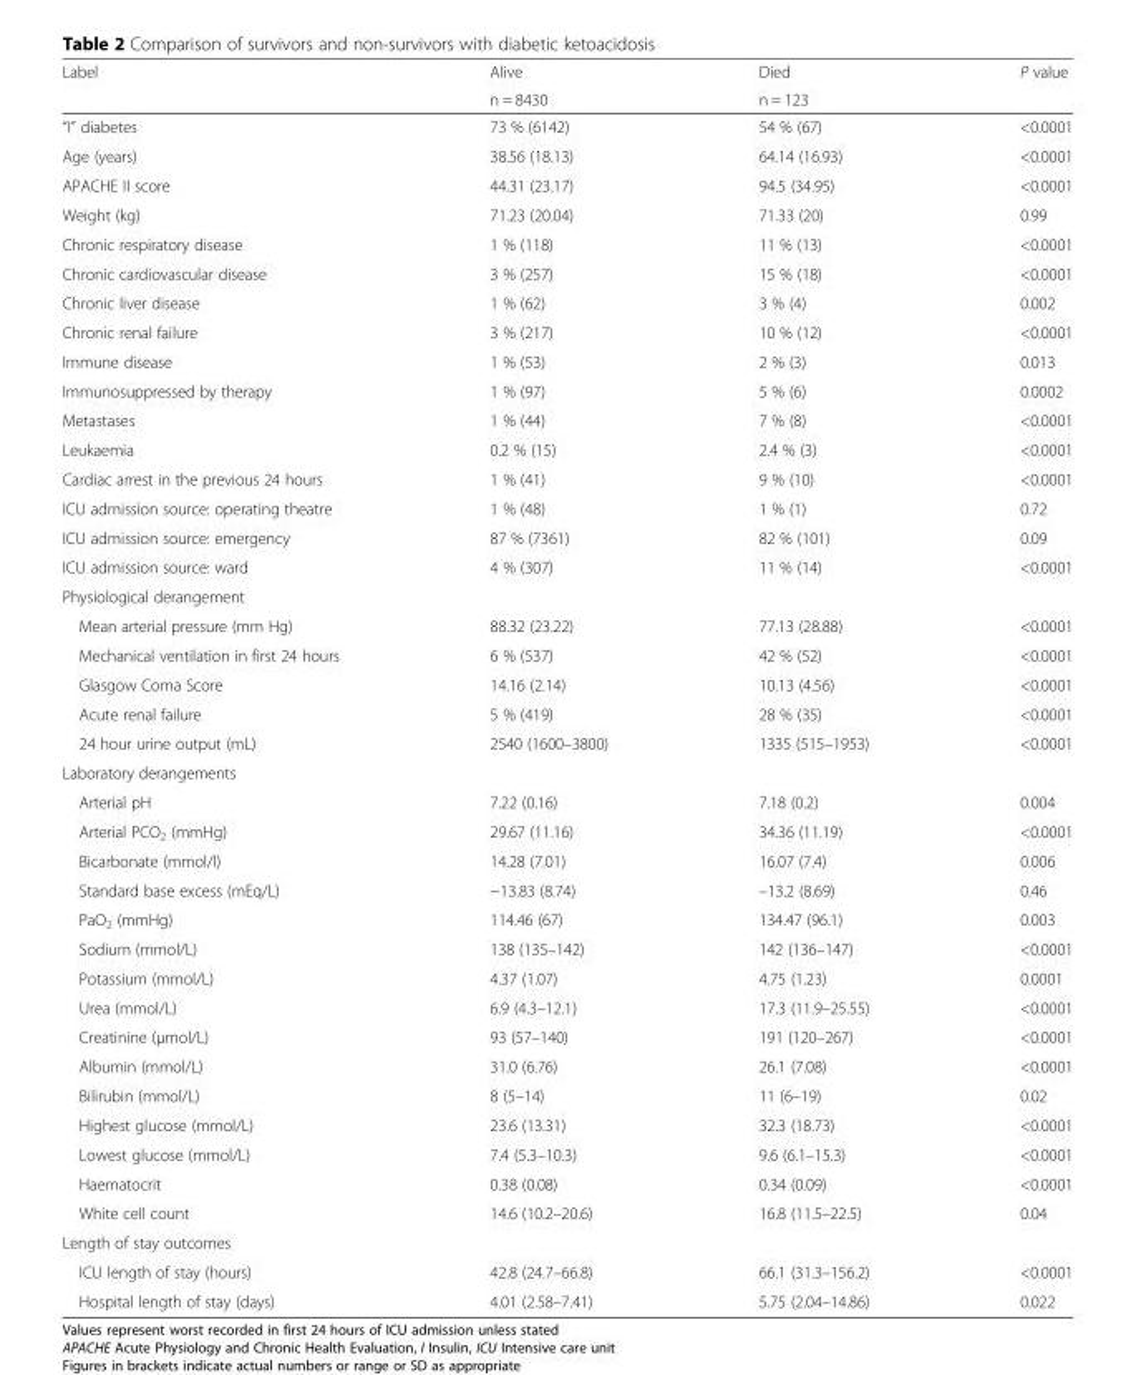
<table><thead><tr><td rowspan="2">Label</td><td rowspan="2">Alive n = 8430</td><td rowspan="2">Died n = 123</td><td rowspan="2">P value</td></tr><tr></tr></thead><tbody><tr><td>“I” diabetes</td><td>73 % (6142)</td><td>54 % (67)</td><td>&lt;0.0001</td></tr><tr><td>Age (years)</td><td>38.56 (18.13)</td><td>64.14 (16.93)</td><td>&lt;0.0001</td></tr><tr><td>APACHE II score</td><td>44.31 (23.17)</td><td>94.5 (34.95)</td><td>&lt;0.0001</td></tr><tr><td>Weight (kg)</td><td>71.23 (20.04)</td><td>71.33 (20)</td><td>0.99</td></tr><tr><td>Chronic respiratory disease</td><td>1 % (118)</td><td>11 % (13)</td><td>&lt;0.0001</td></tr><tr><td>Chronic cardiovascular disease</td><td>3 % (257)</td><td>15 % (18)</td><td>&lt;0.0001</td></tr><tr><td>Chronic liver disease</td><td>1 % (62)</td><td>3 % (4)</td><td>0.002</td></tr><tr><td>Chronic renal failure</td><td>3 % (217)</td><td>10 % (12)</td><td>&lt;0.0001</td></tr><tr><td>Immune disease</td><td>1 % (53)</td><td>2 % (3)</td><td>0.013</td></tr><tr><td>Immunosuppressed by therapy</td><td>1 % (97)</td><td>5 % (6)</td><td>0.0002</td></tr><tr><td>Metastases</td><td>1 % (44)</td><td>7 % (8)</td><td>&lt;0.0001</td></tr><tr><td>Leukaemia</td><td>0.2 % (15)</td><td>2.4 % (3)</td><td>&lt;0.0001</td></tr><tr><td>Cardiac arrest in the previous 24 hours</td><td>1 % (41)</td><td>9 % (10)</td><td>&lt;0.0001</td></tr><tr><td>ICU admission source: operating theatre</td><td>1 % (48)</td><td>1 % (1)</td><td>0.72</td></tr><tr><td>ICU admission source: emergency</td><td>87 % (7361)</td><td>82 % (101)</td><td>0.09</td></tr><tr><td>ICU admission source: ward</td><td>4 % (307)</td><td>11 % (14)</td><td>&lt;0.0001</td></tr><tr><td colspan="4">Physiological derangement</td></tr><tr><td>Mean arterial pressure (mm Hg)</td><td>88.32 (23.22)</td><td>77.13 (28.88)</td><td>&lt;0.0001</td></tr><tr><td>Mechanical ventilation in first 24 hours</td><td>6 % (537)</td><td>42 % (52)</td><td>&lt;0.0001</td></tr><tr><td>Glasgow Coma Score</td><td>14.16 (2.14)</td><td>10.13 (4.56)</td><td>&lt;0.0001</td></tr><tr><td>Acute renal failure</td><td>5 % (419)</td><td>28 % (35)</td><td>&lt;0.0001</td></tr><tr><td>24 hour urine output (mL)</td><td>2540 (1600–3800)</td><td>1335 (515–1953)</td><td>&lt;0.0001</td></tr><tr><td colspan="4">Laboratory derangements</td></tr><tr><td>Arterial pH</td><td>7.22 (0.16)</td><td>7.18 (0.2)</td><td>0.004</td></tr><tr><td>Arterial PCO<sub>2</sub> (mmHg)</td><td>29.67 (11.16)</td><td>34.36 (11.19)</td><td>&lt;0.0001</td></tr><tr><td>Bicarbonate (mmol/l)</td><td>14.28 (7.01)</td><td>16.07 (7.4)</td><td>0.006</td></tr><tr><td>Standard base excess (mEq/L)</td><td>−13.83 (8.74)</td><td>–13.2 (8.69)</td><td>0.46</td></tr><tr><td>PaO<sub>2</sub> (mmHg)</td><td>114.46 (67)</td><td>134.47 (96.1)</td><td>0.003</td></tr><tr><td>Sodium (mmol/L)</td><td>138 (135–142)</td><td>142 (136–147)</td><td>&lt;0.0001</td></tr><tr><td>Potassium (mmol/L)</td><td>4.37 (1.07)</td><td>4.75 (1.23)</td><td>0.0001</td></tr><tr><td>Urea (mmol/L)</td><td>6.9 (4.3–12.1)</td><td>17.3 (11.9–25.55)</td><td>&lt;0.0001</td></tr><tr><td>Creatinine (μmol/L)</td><td>93 (57–140)</td><td>191 (120–267)</td><td>&lt;0.0001</td></tr><tr><td>Albumin (mmol/L)</td><td>31.0 (6.76)</td><td>26.1 (7.08)</td><td>&lt;0.0001</td></tr><tr><td>Bilirubin (mmol/L)</td><td>8 (5–14)</td><td>11 (6–19)</td><td>0.02</td></tr><tr><td>Highest glucose (mmol/L)</td><td>23.6 (13.31)</td><td>32.3 (18.73)</td><td>&lt;0.0001</td></tr><tr><td>Lowest glucose (mmol/L)</td><td>7.4 (5.3–10.3)</td><td>9.6 (6.1–15.3)</td><td>&lt;0.0001</td></tr><tr><td>Haematocrit</td><td>0.38 (0.08)</td><td>0.34 (0.09)</td><td>&lt;0.0001</td></tr><tr><td>White cell count</td><td>14.6 (10.2–20.6)</td><td>16.8 (11.5–22.5)</td><td>0.04</td></tr><tr><td colspan="4">Length of stay outcomes</td></tr><tr><td>ICU length of stay (hours)</td><td>42.8 (24.7–66.8)</td><td>66.1 (31.3–156.2)</td><td>&lt;0.0001</td></tr><tr><td>Hospital length of stay (days)</td><td>4.01 (2.58–7.41)</td><td>5.75 (2.04–14.86)</td><td>0.022</td></tr></tbody></table>